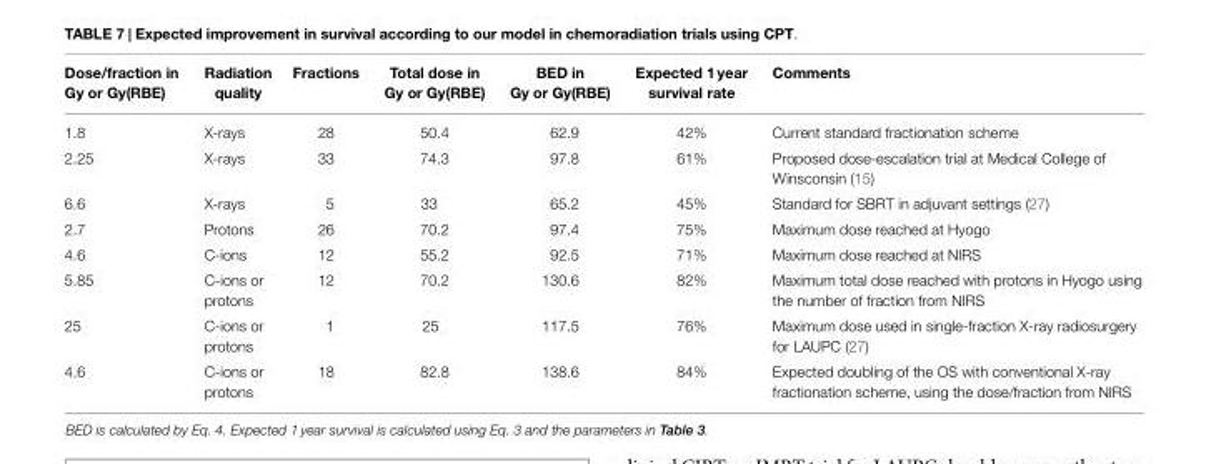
<table><thead><tr><td>Dose/fraction in Gy or Gy(RBE)</td><td>Radiation quality</td><td>Fractions</td><td>Total dose in Gy or Gy(RBE)</td><td>BED in Gy or Gy(RBE)</td><td>Expected 1 year survival rate</td><td>Comments</td></tr></thead><tbody><tr><td>1.8</td><td>X-rays</td><td>28</td><td>50.4</td><td>62.9</td><td>42%</td><td>Current standard fractionation scheme</td></tr><tr><td>2.25</td><td>X-rays</td><td>33</td><td>74.3</td><td>97.8</td><td>61%</td><td>Proposed dose-escalation trial at Medical College of Winsconsin (15)</td></tr><tr><td>6.6</td><td>X-rays</td><td>5</td><td>33</td><td>65.2</td><td>45%</td><td>Standard for SBRT in adjuvant settings (27)</td></tr><tr><td>2.7</td><td>Protons</td><td>26</td><td>70.2</td><td>97.4</td><td>75%</td><td>Maximum dose reached at Hyogo</td></tr><tr><td>4.6</td><td>C-ions</td><td>12</td><td>55.2</td><td>92.5</td><td>71%</td><td>Maximum dose reached at NIRS</td></tr><tr><td>5.85</td><td>C-ions or protons</td><td>12</td><td>70.2</td><td>130.6</td><td>82%</td><td>Maximum total dose reached with protons in Hyogo using the number of fraction from NIRS</td></tr><tr><td>25</td><td>C-ions or protons</td><td>1</td><td>25</td><td>117.5</td><td>76%</td><td>Maximum dose used in single-fraction X-ray radiosurgery for LAUPC (27)</td></tr><tr><td>4.6</td><td>C-ions or protons</td><td>18</td><td>82.8</td><td>138.6</td><td>84%</td><td>Expected doubling of the OS with conventional X-ray fractionation scheme, using the dose/fraction from NIRS</td></tr></tbody></table>